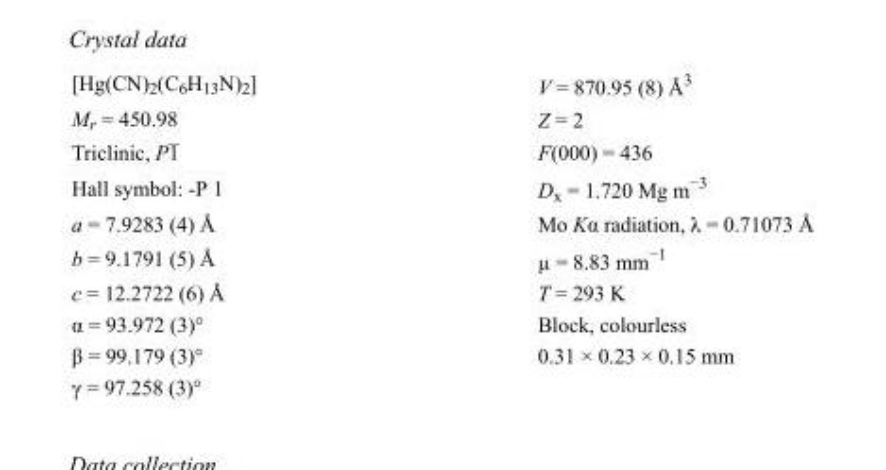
<table><tbody><tr><td>[Hg(CN)<sub>2</sub>(C<sub>6</sub>H<sub>13</sub>N)<sub>2</sub>]</td><td>V = 870.95 (8) Å<sup>3</sup></td></tr><tr><td>M<sub>r</sub> = 450.98</td><td>Z = 2</td></tr><tr><td>Triclinic, P1</td><td>F(000) = 436</td></tr><tr><td>Hall symbol: -P 1</td><td>D<sub>x</sub> = 1.720 Mg m<sup>−3</sup></td></tr><tr><td>a = 7.9283 (4) Å</td><td>Mo Kα radiation, λ = 0.71073 Å</td></tr><tr><td>b = 9.1791 (5) Å</td><td>µ = 8.83 mm<sup>−1</sup></td></tr><tr><td>c = 12.2722 (6) Å</td><td>T = 293 K</td></tr><tr><td>α = 93.972 (3)°</td><td>Block, colourless</td></tr><tr><td>β = 99.179 (3)°</td><td>0.31 × 0.23 × 0.15 mm</td></tr><tr><td>γ = 97.258 (3)°</td><td></td></tr></tbody></table>